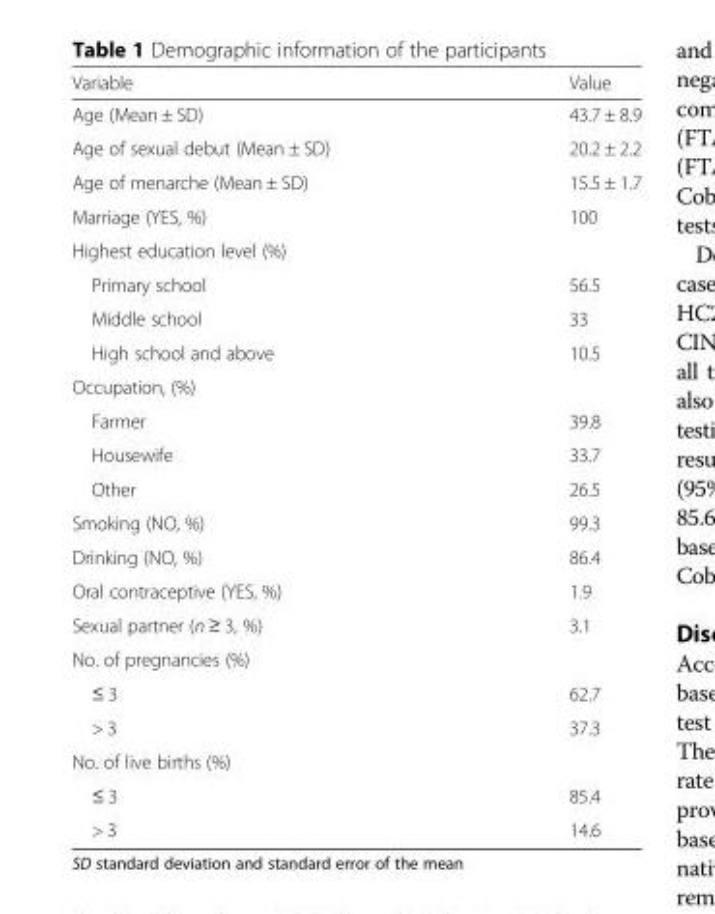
<table><thead><tr><td>Variable</td><td>Value</td></tr></thead><tbody><tr><td>Age (Mean ± SD)</td><td>43.7 ± 8.9</td></tr><tr><td>Age of sexual debut (Mean ± SD)</td><td>20.2 ± 2.2</td></tr><tr><td>Age of menarche (Mean ± SD)</td><td>15.5 ± 1.7</td></tr><tr><td>Marriage (YES, %)</td><td>100</td></tr><tr><td colspan="2">Highest education level (%)</td></tr><tr><td>Primary school</td><td>56.5</td></tr><tr><td>Middle school</td><td>33</td></tr><tr><td>High school and above</td><td>10.5</td></tr><tr><td colspan="2">Occupation, (%)</td></tr><tr><td>Farmer</td><td>39.8</td></tr><tr><td>Housewife</td><td>33.7</td></tr><tr><td>Other</td><td>26.5</td></tr><tr><td>Smoking (NO, %)</td><td>99.3</td></tr><tr><td>Drinking (NO, %)</td><td>86.4</td></tr><tr><td>Oral contraceptive (YES, %)</td><td>1.9</td></tr><tr><td>Sexual partner (n ≥ 3, %)</td><td>3.1</td></tr><tr><td colspan="2">No. of pregnancies (%)</td></tr><tr><td>≤ 3</td><td>62.7</td></tr><tr><td>&gt; 3</td><td>37.3</td></tr><tr><td colspan="2">No. of live births (%)</td></tr><tr><td>≤ 3</td><td>85.4</td></tr><tr><td>&gt; 3</td><td>14.6</td></tr></tbody></table>